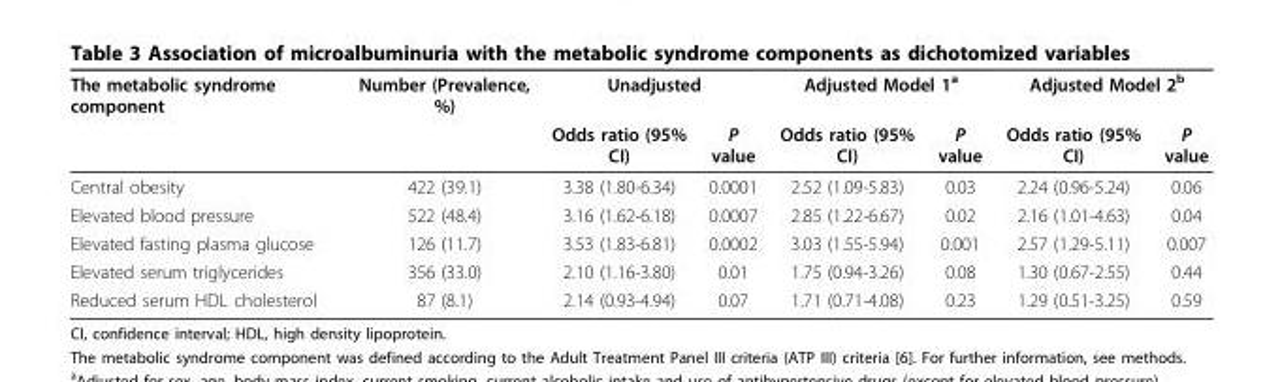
<table><thead><tr><td rowspan="2">The metabolic syndrome component</td><td rowspan="2">Number (Prevalence, %)</td><td colspan="2">Unadjusted</td><td colspan="2">Adjusted Model 1<sup>a</sup></td><td colspan="2">Adjusted Model 2<sup>b</sup></td></tr><tr><td>Odds ratio (95% CI)</td><td>P value</td><td>Odds ratio (95% CI)</td><td>P value</td><td>Odds ratio (95% CI)</td><td>P value</td></tr></thead><tbody><tr><td>Central obesity</td><td>422 (39.1)</td><td>3.38 (1.80-6.34)</td><td>0.0001</td><td>2.52 (1.09-5.83)</td><td>0.03</td><td>2.24 (0.96-5.24)</td><td>0.06</td></tr><tr><td>Elevated blood pressure</td><td>522 (48.4)</td><td>3.16 (1.62-6.18)</td><td>0.0007</td><td>2.85 (1.22-6.67)</td><td>0.02</td><td>2.16 (1.01-4.63)</td><td>0.04</td></tr><tr><td>Elevated fasting plasma glucose</td><td>126 (11.7)</td><td>3.53 (1.83-6.81)</td><td>0.0002</td><td>3.03 (1.55-5.94)</td><td>0.001</td><td>2.57 (1.29-5.11)</td><td>0.007</td></tr><tr><td>Elevated serum triglycerides</td><td>356 (33.0)</td><td>2.10 (1.16-3.80)</td><td>0.01</td><td>1.75 (0.94-3.26)</td><td>0.08</td><td>1.30 (0.67-2.55)</td><td>0.44</td></tr><tr><td>Reduced serum HDL cholesterol</td><td>87 (8.1)</td><td>2.14 (0.93-4.94)</td><td>0.07</td><td>1.71 (0.71-4.08)</td><td>0.23</td><td>1.29 (0.51-3.25)</td><td>0.59</td></tr></tbody></table>